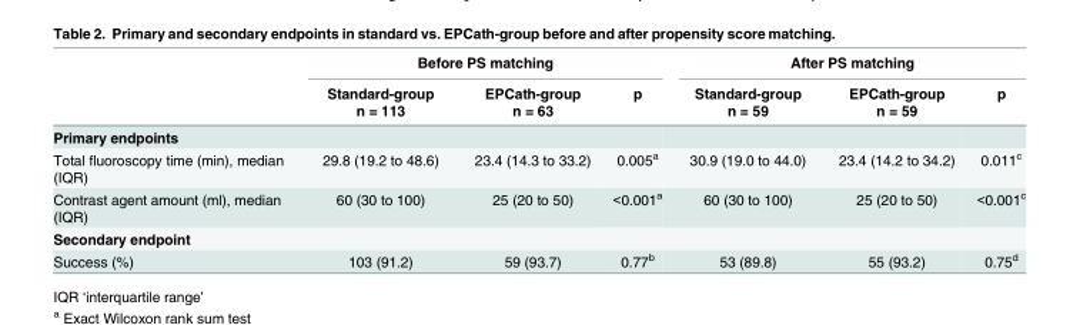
<table><thead><tr><td rowspan="2"></td><td colspan="3">Before PS matching</td><td colspan="3">After PS matching</td></tr><tr><td>Standard-group n = 113</td><td>EPCath-group n = 63</td><td>p</td><td>Standard-group n = 59</td><td>EPCath-group n = 59</td><td>p</td></tr></thead><tbody><tr><td colspan="7">Primary endpoints</td></tr><tr><td>Total fluoroscopy time (min), median (IQR)</td><td>29.8 (19.2 to 48.6)</td><td>23.4 (14.3 to 33.2)</td><td>0.005<sup>a</sup></td><td>30.9 (19.0 to 44.0)</td><td>23.4 (14.2 to 34.2)</td><td>0.011<sup>c</sup></td></tr><tr><td>Contrast agent amount (ml), median (IQR)</td><td>60 (30 to 100)</td><td>25 (20 to 50)</td><td>&lt;0.001<sup>a</sup></td><td>60 (30 to 100)</td><td>25 (20 to 50)</td><td>&lt;0.001<sup>c</sup></td></tr><tr><td colspan="7">Secondary endpoint</td></tr><tr><td>Success (%)</td><td>103 (91.2)</td><td>59 (93.7)</td><td>0.77<sup>b</sup></td><td>53 (89.8)</td><td>55 (93.2)</td><td>0.75<sup>d</sup></td></tr></tbody></table>